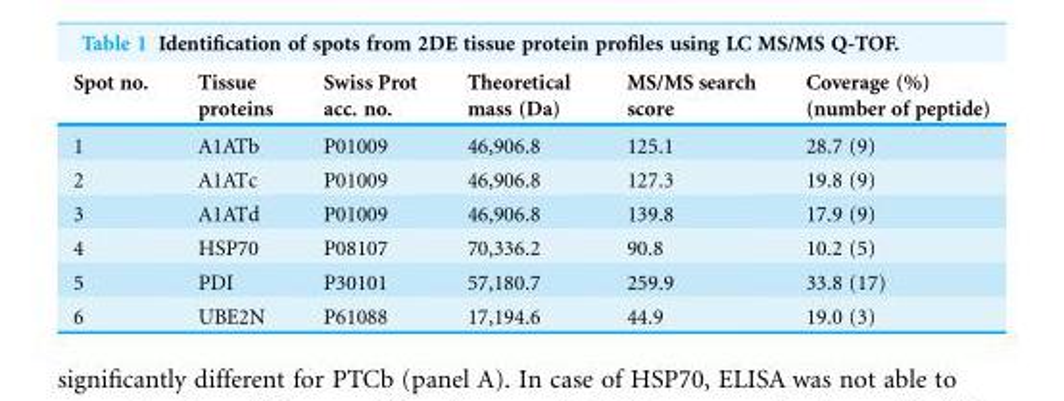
<table><thead><tr><td>Spot no.</td><td>Tissue proteins</td><td>Swiss Prot acc. no.</td><td>Theoretical mass (Da)</td><td>MS/MS search score</td><td>Coverage (%) (number of peptide)</td></tr></thead><tbody><tr><td>1</td><td>A1ATb</td><td>P01009</td><td>46,906.8</td><td>125.1</td><td>28.7 (9)</td></tr><tr><td>2</td><td>A1ATc</td><td>P01009</td><td>46,906.8</td><td>127.3</td><td>19.8 (9)</td></tr><tr><td>3</td><td>A1ATd</td><td>P01009</td><td>46,906.8</td><td>139.8</td><td>17.9 (9)</td></tr><tr><td>4</td><td>HSP70</td><td>P08107</td><td>70,336.2</td><td>90.8</td><td>10.2 (5)</td></tr><tr><td>5</td><td>PDI</td><td>P30101</td><td>57,180.7</td><td>259.9</td><td>33.8 (17)</td></tr><tr><td>6</td><td>UBE2N</td><td>P61088</td><td>17,194.6</td><td>44.9</td><td>19.0 (3)</td></tr></tbody></table>